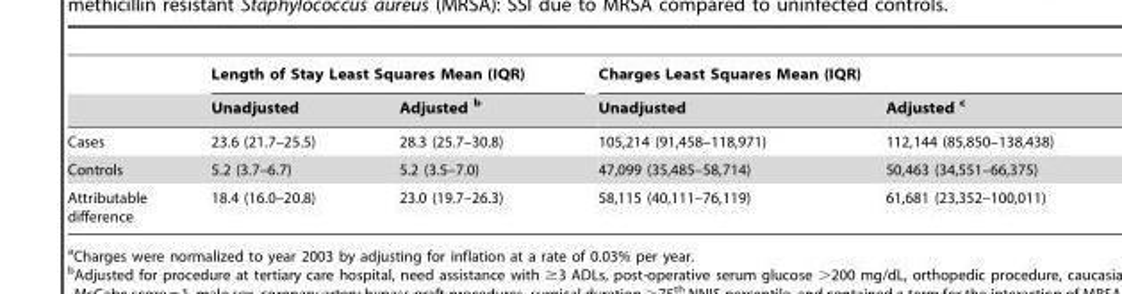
<table><thead><tr><td rowspan="2"></td><td colspan="2">Length of Stay Least Squares Mean (IQR)</td><td colspan="2">Charges Least Squares Mean (IQR)</td></tr><tr><td>Unadjusted</td><td>Adjusted b</td><td>Unadjusted</td><td>Adjusted c</td></tr></thead><tbody><tr><td>Cases</td><td>23.6 (21.7–25.5)</td><td>28.3 (25.7–30.8)</td><td>105,214 (91,458–118,971)</td><td>112,144 (85,850–138,438)</td></tr><tr><td>Controls</td><td>5.2 (3.7–6.7)</td><td>5.2 (3.5–7.0)</td><td>47,099 (35,485–58,714)</td><td>50,463 (34,551–66,375)</td></tr><tr><td>Attributable difference</td><td>18.4 (16.0–20.8)</td><td>23.0 (19.7–26.3)</td><td>58,115 (40,111–76,119)</td><td>61,681 (23,352–100,011)</td></tr></tbody></table>